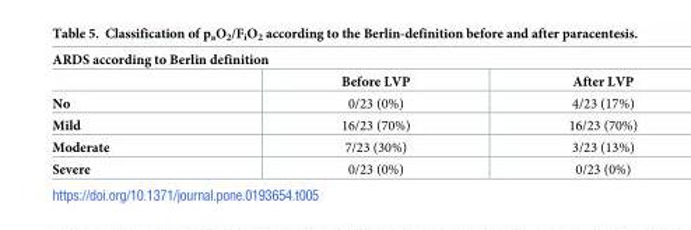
<table><thead><tr><td colspan="3">ARDS according to Berlin definition</td></tr><tr><td></td><td>Before LVP</td><td>After LVP</td></tr></thead><tbody><tr><td>No</td><td>0/23 (0%)</td><td>4/23 (17%)</td></tr><tr><td>Mild</td><td>16/23 (70%)</td><td>16/23 (70%)</td></tr><tr><td>Moderate</td><td>7/23 (30%)</td><td>3/23 (13%)</td></tr><tr><td>Severe</td><td>0/23 (0%)</td><td>0/23 (0%)</td></tr></tbody></table>